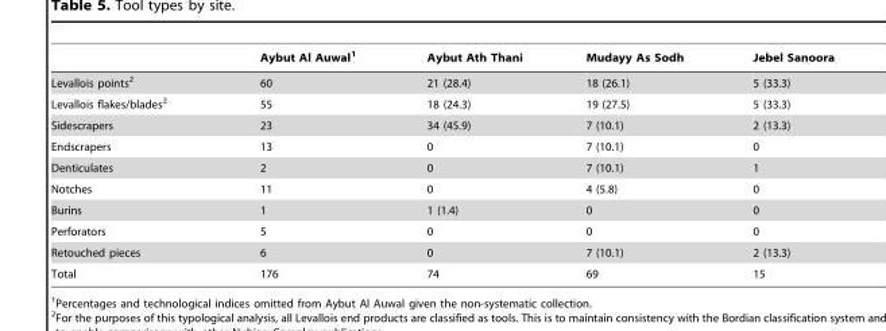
<table><thead><tr><td></td><td>Aybut Al Auwal<sup>1</sup></td><td>Aybut Ath Thani</td><td>Mudayy As Sodh</td><td>Jebel Sanoora</td></tr></thead><tbody><tr><td>Levallois points<sup>2</sup></td><td>60</td><td>21 (28.4)</td><td>18 (26.1)</td><td>5 (33.3)</td></tr><tr><td>Levallois flakes/blades<sup>2</sup></td><td>55</td><td>18 (24.3)</td><td>19 (27.5)</td><td>5 (33.3)</td></tr><tr><td>Sidescrapers</td><td>23</td><td>34 (45.9)</td><td>7 (10.1)</td><td>2 (13.3)</td></tr><tr><td>Endscrapers</td><td>13</td><td>0</td><td>7 (10.1)</td><td>0</td></tr><tr><td>Denticulates</td><td>2</td><td>0</td><td>7 (10.1)</td><td>1</td></tr><tr><td>Notches</td><td>11</td><td>0</td><td>4 (5.8)</td><td>0</td></tr><tr><td>Burins</td><td>1</td><td>1 (1.4)</td><td>0</td><td>0</td></tr><tr><td>Perforators</td><td>5</td><td>0</td><td>0</td><td>0</td></tr><tr><td>Retouched pieces</td><td>6</td><td>0</td><td>7 (10.1)</td><td>2 (13.3)</td></tr><tr><td>Total</td><td>176</td><td>74</td><td>69</td><td>15</td></tr></tbody></table>